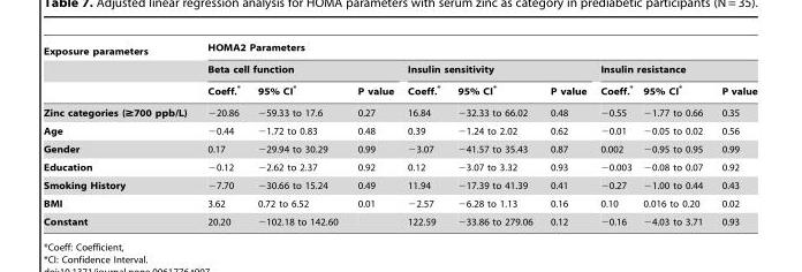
<table><thead><tr><td rowspan="3">Exposure parameters</td><td colspan="9">HOMA2 Parameters</td></tr><tr><td colspan="3">Beta cell function</td><td colspan="3">Insulin sensitivity</td><td colspan="3">Insulin resistance</td></tr><tr><td>Coeff.*</td><td>95% CI*</td><td>P value</td><td>Coeff.*</td><td>95% CI*</td><td>P value</td><td>Coeff.*</td><td>95% CI*</td><td>P value</td></tr></thead><tbody><tr><td>Zinc categories (≥700 ppb/L)</td><td>−20.86</td><td>−59.33 to 17.6</td><td>0.27</td><td>16.84</td><td>−32.33 to 66.02</td><td>0.48</td><td>−0.55</td><td>−1.77 to 0.66</td><td>0.35</td></tr><tr><td>Age</td><td>−0.44</td><td>−1.72 to 0.83</td><td>0.48</td><td>0.39</td><td>−1.24 to 2.02</td><td>0.62</td><td>−0.01</td><td>−0.05 to 0.02</td><td>0.56</td></tr><tr><td>Gender</td><td>0.17</td><td>−29.94 to 30.29</td><td>0.99</td><td>−3.07</td><td>−41.57 to 35.43</td><td>0.87</td><td>0.002</td><td>−0.95 to 0.95</td><td>0.99</td></tr><tr><td>Education</td><td>−0.12</td><td>−2.62 to 2.37</td><td>0.92</td><td>0.12</td><td>−3.07 to 3.32</td><td>0.93</td><td>−0.003</td><td>−0.08 to 0.07</td><td>0.92</td></tr><tr><td>Smoking History</td><td>−7.70</td><td>−30.66 to 15.24</td><td>0.49</td><td>11.94</td><td>−17.39 to 41.39</td><td>0.41</td><td>−0.27</td><td>−1.00 to 0.44</td><td>0.43</td></tr><tr><td>BMI</td><td>3.62</td><td>0.72 to 6.52</td><td>0.01</td><td>−2.57</td><td>−6.28 to 1.13</td><td>0.16</td><td>0.10</td><td>0.016 to 0.20</td><td>0.02</td></tr><tr><td>Constant</td><td>20.20</td><td>−102.18 to 142.60</td><td></td><td>122.59</td><td>−33.86 to 279.06</td><td>0.12</td><td>−0.16</td><td>−4.03 to 3.71</td><td>0.93</td></tr></tbody></table>